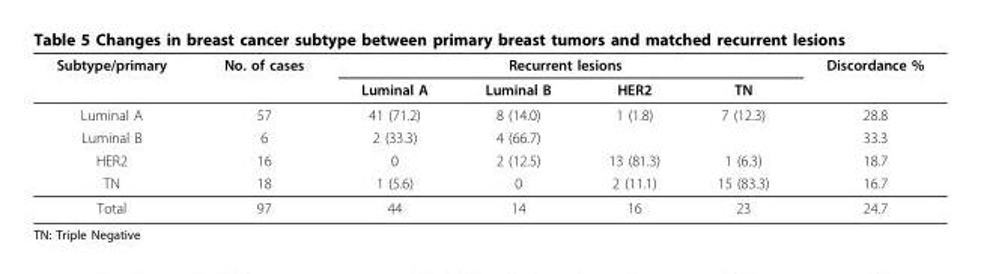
<table><thead><tr><td rowspan="2">Subtype/primary</td><td rowspan="2">No. of cases</td><td colspan="4">Recurrent lesions</td><td rowspan="2">Discordance %</td></tr><tr><td>Luminal A</td><td>Luminal B</td><td>HER2</td><td>TN</td></tr></thead><tbody><tr><td>Luminal A</td><td>57</td><td>41 (71.2)</td><td>8 (14.0)</td><td>1 (1.8)</td><td>7 (12.3)</td><td>28.8</td></tr><tr><td>Luminal B</td><td>6</td><td>2 (33.3)</td><td>4 (66.7)</td><td></td><td></td><td>33.3</td></tr><tr><td>HER2</td><td>16</td><td>0</td><td>2 (12.5)</td><td>13 (81.3)</td><td>1 (6.3)</td><td>18.7</td></tr><tr><td>TN</td><td>18</td><td>1 (5.6)</td><td>0</td><td>2 (11.1)</td><td>15 (83.3)</td><td>16.7</td></tr><tr><td>Total</td><td>97</td><td>44</td><td>14</td><td>16</td><td>23</td><td>24.7</td></tr></tbody></table>